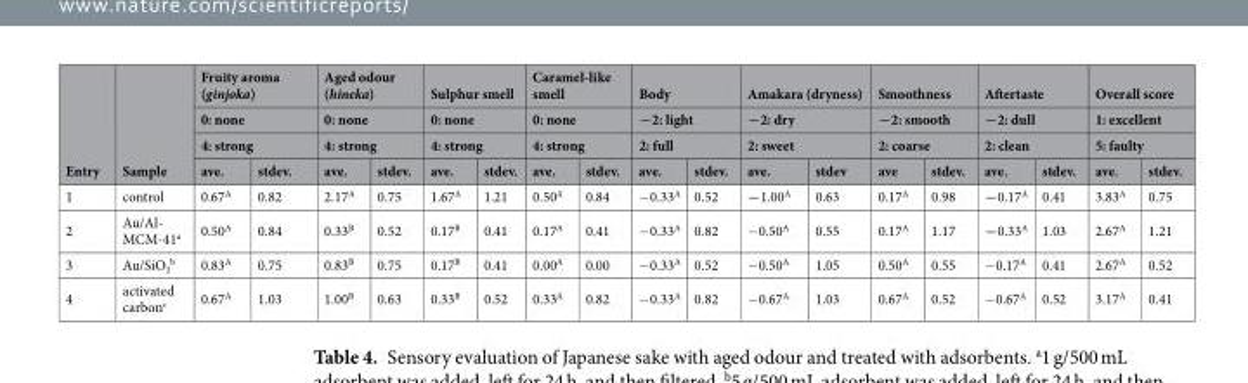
<table><thead><tr><td rowspan="4">Entry</td><td rowspan="4">Sample</td><td rowspan="3" colspan="2">Fruity aroma (ginjoka) 0: none 4: strong</td><td rowspan="3" colspan="2">Aged odour (hineka) 0: none 4: strong</td><td rowspan="3" colspan="2">Sulphur smell 0: none 4: strong</td><td rowspan="3" colspan="2">Caramel-like smell 0: none 4: strong</td><td rowspan="3" colspan="2">Body −2: light 2: full</td><td rowspan="3" colspan="2">Amakara (dryness) −2: dry 2: sweet</td><td rowspan="3" colspan="2">Smoothness −2: smooth 2: coarse</td><td rowspan="3" colspan="2">Aftertaste −2: dull 2: clean</td><td rowspan="3" colspan="2">Overall score 1: excellent 5: faulty</td></tr><tr></tr><tr></tr><tr><td>ave.</td><td>stdev.</td><td>ave.</td><td>stdev.</td><td>ave.</td><td>stdev.</td><td>ave.</td><td>stdev.</td><td>ave.</td><td>stdev.</td><td>ave.</td><td>stdev</td><td>ave</td><td>stdev.</td><td>ave.</td><td>stdev.</td><td>ave.</td><td>stdev.</td></tr></thead><tbody><tr><td>1</td><td>control</td><td>0.67<sup>A</sup></td><td>0.82</td><td>2.17<sup>A</sup></td><td>0.75</td><td>1.67<sup>A</sup></td><td>1.21</td><td>0.50<sup>A</sup></td><td>0.84</td><td>−0.33<sup>A</sup></td><td>0.52</td><td>−1.00<sup>A</sup></td><td>0.63</td><td>0.17<sup>A</sup></td><td>0.98</td><td>−0.17<sup>A</sup></td><td>0.41</td><td>3.83<sup>A</sup></td><td>0.75</td></tr><tr><td>2</td><td>Au/Al- MCM-41<sup>a</sup></td><td>0.50<sup>A</sup></td><td>0.84</td><td>0.33<sup>B</sup></td><td>0.52</td><td>0.17<sup>B</sup></td><td>0.41</td><td>0.17<sup>A</sup></td><td>0.41</td><td>−0.33<sup>A</sup></td><td>0.82</td><td>−0.50<sup>A</sup></td><td>0.55</td><td>0.17<sup>A</sup></td><td>1.17</td><td>−0.33<sup>A</sup></td><td>1.03</td><td>2.67<sup>A</sup></td><td>1.21</td></tr><tr><td>3</td><td>Au/SiO<sub>2</sub> <sup>b</sup></td><td>0.83<sup>A</sup></td><td>0.75</td><td>0.83<sup>B</sup></td><td>0.75</td><td>0.17<sup>B</sup></td><td>0.41</td><td>0.00<sup>A</sup></td><td>0.00</td><td>−0.33<sup>A</sup></td><td>0.52</td><td>−0.50<sup>A</sup></td><td>1.05</td><td>0.50<sup>A</sup></td><td>0.55</td><td>−0.17<sup>A</sup></td><td>0.41</td><td>2.67<sup>A</sup></td><td>0.52</td></tr><tr><td>4</td><td>activated carbon<sup>c</sup></td><td>0.67<sup>A</sup></td><td>1.03</td><td>1.00<sup>B</sup></td><td>0.63</td><td>0.33<sup>B</sup></td><td>0.52</td><td>0.33<sup>A</sup></td><td>0.82</td><td>−0.33<sup>A</sup></td><td>0.82</td><td>−0.67<sup>A</sup></td><td>1.03</td><td>0.67<sup>A</sup></td><td>0.52</td><td>−0.67<sup>A</sup></td><td>0.52</td><td>3.17<sup>A</sup></td><td>0.41</td></tr></tbody></table>